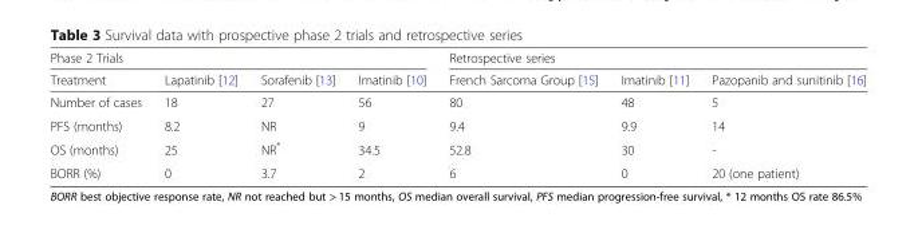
<table><thead><tr><td colspan="4">Phase 2 Trials</td><td colspan="3">Retrospective series</td></tr><tr><td>Treatment</td><td>Lapatinib [12]</td><td>Sorafenib [13]</td><td>Imatinib [10]</td><td>French Sarcoma Group [15]</td><td>Imatinib [11]</td><td>Pazopanib and sunitinib [16]</td></tr></thead><tbody><tr><td>Number of cases</td><td>18</td><td>27</td><td>56</td><td>80</td><td>48</td><td>5</td></tr><tr><td>PFS (months)</td><td>8.2</td><td>NR</td><td>9</td><td>9.4</td><td>9.9</td><td>14</td></tr><tr><td>OS (months)</td><td>25</td><td>NR*</td><td>34.5</td><td>52.8</td><td>30</td><td>-</td></tr><tr><td>BORR (%)</td><td>0</td><td>3.7</td><td>2</td><td>6</td><td>0</td><td>20 (one patient)</td></tr></tbody></table>